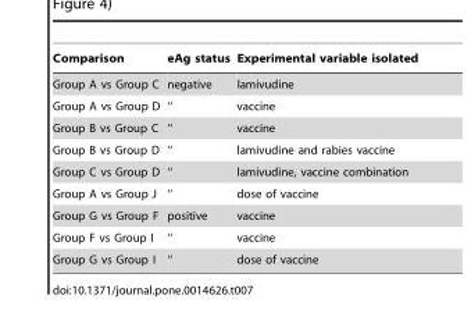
<table><thead><tr><td>Comparison</td><td>eAg status</td><td>Experimental variable isolated</td></tr></thead><tbody><tr><td>Group A vs Group C</td><td>negative</td><td>lamivudine</td></tr><tr><td>Group A vs Group D</td><td>‘‘</td><td>vaccine</td></tr><tr><td>Group B vs Group C</td><td>‘‘</td><td>vaccine</td></tr><tr><td>Group B vs Group D</td><td>‘‘</td><td>lamivudine and rabies vaccine</td></tr><tr><td>Group C vs Group D</td><td>‘‘</td><td>lamivudine, vaccine combination</td></tr><tr><td>Group A vs Group J</td><td>‘‘</td><td>dose of vaccine</td></tr><tr><td>Group G vs Group F</td><td>positive</td><td>vaccine</td></tr><tr><td>Group F vs Group I</td><td>‘‘</td><td>vaccine</td></tr><tr><td>Group G vs Group I</td><td>‘‘</td><td>dose of vaccine</td></tr></tbody></table>